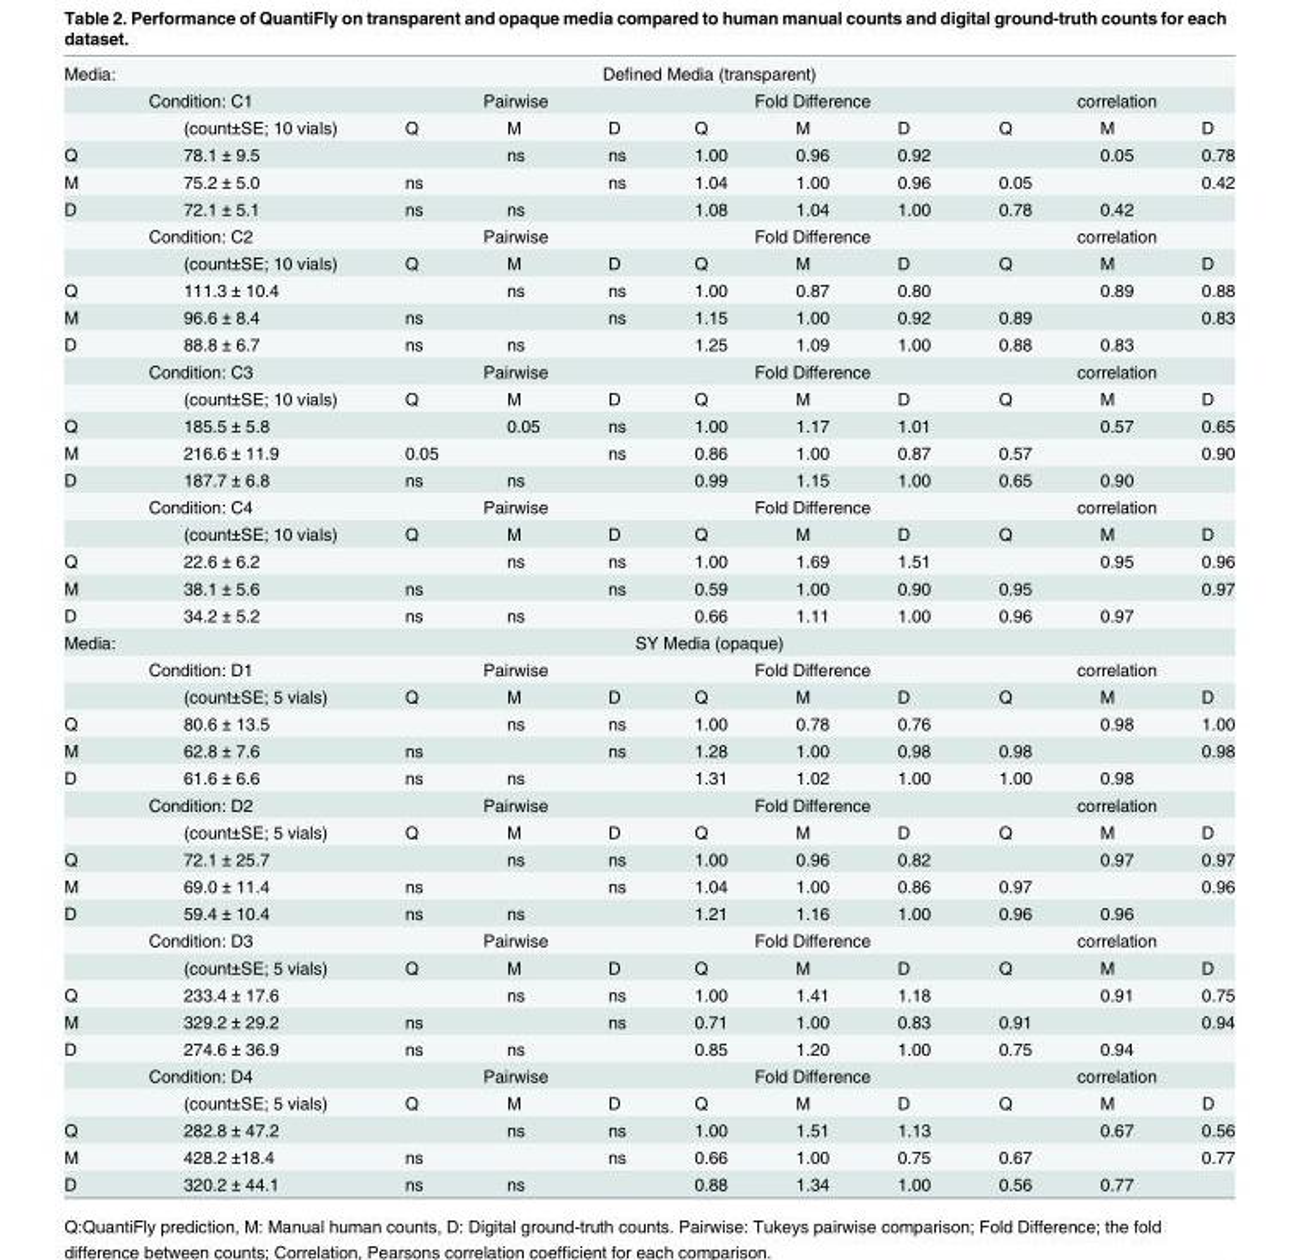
<table><tbody><tr><td>Media:</td><td colspan="10">Defined Media (transparent)</td></tr><tr><td colspan="2">Condition: C1</td><td colspan="3">Pairwise</td><td colspan="3">Fold Difference</td><td colspan="3">correlation</td></tr><tr><td></td><td>(count±SE; 10 vials)</td><td>Q</td><td>M</td><td>D</td><td>Q</td><td>M</td><td>D</td><td>Q</td><td>M</td><td>D</td></tr><tr><td>Q</td><td>78.1 ± 9.5</td><td></td><td>ns</td><td>ns</td><td>1.00</td><td>0.96</td><td>0.92</td><td></td><td>0.05</td><td>0.78</td></tr><tr><td>M</td><td>75.2 ± 5.0</td><td>ns</td><td></td><td>ns</td><td>1.04</td><td>1.00</td><td>0.96</td><td>0.05</td><td></td><td>0.42</td></tr><tr><td>D</td><td>72.1 ± 5.1</td><td>ns</td><td>ns</td><td></td><td>1.08</td><td>1.04</td><td>1.00</td><td>0.78</td><td>0.42</td><td></td></tr><tr><td colspan="2">Condition: C2</td><td colspan="3">Pairwise</td><td colspan="3">Fold Difference</td><td colspan="3">correlation</td></tr><tr><td></td><td>(count±SE; 10 vials)</td><td>Q</td><td>M</td><td>D</td><td>Q</td><td>M</td><td>D</td><td>Q</td><td>M</td><td>D</td></tr><tr><td>Q</td><td>111.3 ± 10.4</td><td></td><td>ns</td><td>ns</td><td>1.00</td><td>0.87</td><td>0.80</td><td></td><td>0.89</td><td>0.88</td></tr><tr><td>M</td><td>96.6 ± 8.4</td><td>ns</td><td></td><td>ns</td><td>1.15</td><td>1.00</td><td>0.92</td><td>0.89</td><td></td><td>0.83</td></tr><tr><td>D</td><td>88.8 ± 6.7</td><td>ns</td><td>ns</td><td></td><td>1.25</td><td>1.09</td><td>1.00</td><td>0.88</td><td>0.83</td><td></td></tr><tr><td colspan="2">Condition: C3</td><td colspan="3">Pairwise</td><td colspan="3">Fold Difference</td><td colspan="3">correlation</td></tr><tr><td></td><td>(count±SE; 10 vials)</td><td>Q</td><td>M</td><td>D</td><td>Q</td><td>M</td><td>D</td><td>Q</td><td>M</td><td>D</td></tr><tr><td>Q</td><td>185.5 ± 5.8</td><td></td><td>0.05</td><td>ns</td><td>1.00</td><td>1.17</td><td>1.01</td><td></td><td>0.57</td><td>0.65</td></tr><tr><td>M</td><td>216.6 ± 11.9</td><td>0.05</td><td></td><td>ns</td><td>0.86</td><td>1.00</td><td>0.87</td><td>0.57</td><td></td><td>0.90</td></tr><tr><td>D</td><td>187.7 ± 6.8</td><td>ns</td><td>ns</td><td></td><td>0.99</td><td>1.15</td><td>1.00</td><td>0.65</td><td>0.90</td><td></td></tr><tr><td colspan="2">Condition: C4</td><td colspan="3">Pairwise</td><td colspan="3">Fold Difference</td><td colspan="3">correlation</td></tr><tr><td></td><td>(count±SE; 10 vials)</td><td>Q</td><td>M</td><td>D</td><td>Q</td><td>M</td><td>D</td><td>Q</td><td>M</td><td>D</td></tr><tr><td>Q</td><td>22.6 ± 6.2</td><td></td><td>ns</td><td>ns</td><td>1.00</td><td>1.69</td><td>1.51</td><td></td><td>0.95</td><td>0.96</td></tr><tr><td>M</td><td>38.1 ± 5.6</td><td>ns</td><td></td><td>ns</td><td>0.59</td><td>1.00</td><td>0.90</td><td>0.95</td><td></td><td>0.97</td></tr><tr><td>D</td><td>34.2 ± 5.2</td><td>ns</td><td>ns</td><td></td><td>0.66</td><td>1.11</td><td>1.00</td><td>0.96</td><td>0.97</td><td></td></tr><tr><td>Media:</td><td colspan="10">SY Media (opaque)</td></tr><tr><td colspan="2">Condition: D1</td><td colspan="3">Pairwise</td><td colspan="3">Fold Difference</td><td colspan="3">correlation</td></tr><tr><td></td><td>(count±SE; 5 vials)</td><td>Q</td><td>M</td><td>D</td><td>Q</td><td>M</td><td>D</td><td>Q</td><td>M</td><td>D</td></tr><tr><td>Q</td><td>80.6 ± 13.5</td><td></td><td>ns</td><td>ns</td><td>1.00</td><td>0.78</td><td>0.76</td><td></td><td>0.98</td><td>1.00</td></tr><tr><td>M</td><td>62.8 ± 7.6</td><td>ns</td><td></td><td>ns</td><td>1.28</td><td>1.00</td><td>0.98</td><td>0.98</td><td></td><td>0.98</td></tr><tr><td>D</td><td>61.6 ± 6.6</td><td>ns</td><td>ns</td><td></td><td>1.31</td><td>1.02</td><td>1.00</td><td>1.00</td><td>0.98</td><td></td></tr><tr><td colspan="2">Condition: D2</td><td colspan="3">Pairwise</td><td colspan="3">Fold Difference</td><td colspan="3">correlation</td></tr><tr><td></td><td>(count±SE; 5 vials)</td><td>Q</td><td>M</td><td>D</td><td>Q</td><td>M</td><td>D</td><td>Q</td><td>M</td><td>D</td></tr><tr><td>Q</td><td>72.1 ± 25.7</td><td></td><td>ns</td><td>ns</td><td>1.00</td><td>0.96</td><td>0.82</td><td></td><td>0.97</td><td>0.97</td></tr><tr><td>M</td><td>69.0 ± 11.4</td><td>ns</td><td></td><td>ns</td><td>1.04</td><td>1.00</td><td>0.86</td><td>0.97</td><td></td><td>0.96</td></tr><tr><td>D</td><td>59.4 ± 10.4</td><td>ns</td><td>ns</td><td></td><td>1.21</td><td>1.16</td><td>1.00</td><td>0.96</td><td>0.96</td><td></td></tr><tr><td colspan="2">Condition: D3</td><td colspan="3">Pairwise</td><td colspan="3">Fold Difference</td><td colspan="3">correlation</td></tr><tr><td></td><td>(count±SE; 5 vials)</td><td>Q</td><td>M</td><td>D</td><td>Q</td><td>M</td><td>D</td><td>Q</td><td>M</td><td>D</td></tr><tr><td>Q</td><td>233.4 ± 17.6</td><td></td><td>ns</td><td>ns</td><td>1.00</td><td>1.41</td><td>1.18</td><td></td><td>0.91</td><td>0.75</td></tr><tr><td>M</td><td>329.2 ± 29.2</td><td>ns</td><td></td><td>ns</td><td>0.71</td><td>1.00</td><td>0.83</td><td>0.91</td><td></td><td>0.94</td></tr><tr><td>D</td><td>274.6 ± 36.9</td><td>ns</td><td>ns</td><td></td><td>0.85</td><td>1.20</td><td>1.00</td><td>0.75</td><td>0.94</td><td></td></tr><tr><td colspan="2">Condition: D4</td><td colspan="3">Pairwise</td><td colspan="3">Fold Difference</td><td colspan="3">correlation</td></tr><tr><td></td><td>(count±SE; 5 vials)</td><td>Q</td><td>M</td><td>D</td><td>Q</td><td>M</td><td>D</td><td>Q</td><td>M</td><td>D</td></tr><tr><td>Q</td><td>282.8 ± 47.2</td><td></td><td>ns</td><td>ns</td><td>1.00</td><td>1.51</td><td>1.13</td><td></td><td>0.67</td><td>0.56</td></tr><tr><td>M</td><td>428.2 ±18.4</td><td>ns</td><td></td><td>ns</td><td>0.66</td><td>1.00</td><td>0.75</td><td>0.67</td><td></td><td>0.77</td></tr><tr><td>D</td><td>320.2 ± 44.1</td><td>ns</td><td>ns</td><td></td><td>0.88</td><td>1.34</td><td>1.00</td><td>0.56</td><td>0.77</td><td></td></tr></tbody></table>